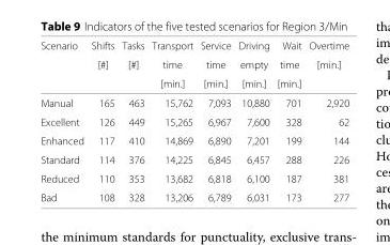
<table><thead><tr><td rowspan="3">Scenario</td><td rowspan="3">Shifts [#]</td><td rowspan="3">Tasks [#]</td><td rowspan="3">Transport time [min.]</td><td rowspan="3">Service time [min.]</td><td rowspan="3">Driving empty [min.]</td><td rowspan="3">Wait time [min.]</td><td rowspan="3">Overtime [min.]</td></tr><tr></tr><tr></tr></thead><tbody><tr><td>Manual</td><td>165</td><td>463</td><td>15,762</td><td>7,093</td><td>10,880</td><td>701</td><td>2,920</td></tr><tr><td>Excellent</td><td>126</td><td>449</td><td>15,265</td><td>6,967</td><td>7,600</td><td>328</td><td>62</td></tr><tr><td>Enhanced</td><td>117</td><td>410</td><td>14,869</td><td>6,890</td><td>7,201</td><td>199</td><td>144</td></tr><tr><td>Standard</td><td>114</td><td>376</td><td>14,225</td><td>6,845</td><td>6,457</td><td>288</td><td>226</td></tr><tr><td>Reduced</td><td>110</td><td>353</td><td>13,682</td><td>6,818</td><td>6,100</td><td>187</td><td>381</td></tr><tr><td>Bad</td><td>108</td><td>328</td><td>13,206</td><td>6,789</td><td>6,031</td><td>173</td><td>277</td></tr></tbody></table>